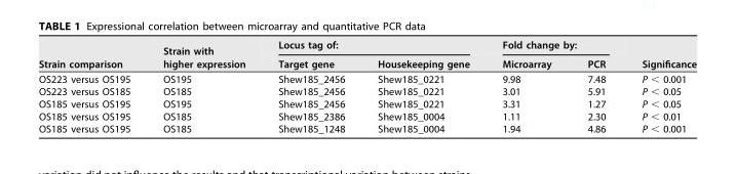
<table><thead><tr><td rowspan="2">Strain comparison</td><td rowspan="2">Strain with higher expression</td><td colspan="2">Locus tag of:</td><td colspan="2">Fold change by:</td><td rowspan="2">Significance</td></tr><tr><td>Target gene</td><td>Housekeeping gene</td><td>Microarray</td><td>PCR</td></tr></thead><tbody><tr><td>OS223 versus OS195</td><td>OS195</td><td>Shew185_2456</td><td>Shew185_0221</td><td>9.98</td><td>7.48</td><td>P &lt; 0.001</td></tr><tr><td>OS223 versus OS185</td><td>OS185</td><td>Shew185_2456</td><td>Shew185_0221</td><td>3.01</td><td>5.91</td><td>P &lt; 0.05</td></tr><tr><td>OS185 versus OS195</td><td>OS195</td><td>Shew185_2456</td><td>Shew185_0221</td><td>3.31</td><td>1.27</td><td>P &lt; 0.05</td></tr><tr><td>OS185 versus OS195</td><td>OS185</td><td>Shew185_2386</td><td>Shew185_0004</td><td>1.11</td><td>2.30</td><td>P &lt; 0.01</td></tr><tr><td>OS185 versus OS195</td><td>OS185</td><td>Shew185_1248</td><td>Shew185_0004</td><td>1.94</td><td>4.86</td><td>P &lt; 0.001</td></tr></tbody></table>